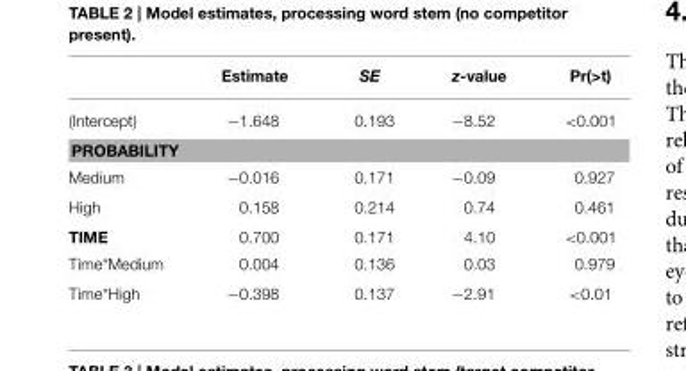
<table><thead><tr><td></td><td>Estimate</td><td>SE</td><td>z-value</td><td>Pr(&gt;t)</td></tr></thead><tbody><tr><td>(Intercept)</td><td>−1.648</td><td>0.193</td><td>−8.52</td><td>&lt;0.001</td></tr><tr><td colspan="5">PROBABILITY</td></tr><tr><td>Medium</td><td>−0.016</td><td>0.171</td><td>−0.09</td><td>0.927</td></tr><tr><td>High</td><td>0.158</td><td>0.214</td><td>0.74</td><td>0.461</td></tr><tr><td>TIME</td><td>0.700</td><td>0.171</td><td>4.10</td><td>&lt;0.001</td></tr><tr><td>Time*Medium</td><td>0.004</td><td>0.136</td><td>0.03</td><td>0.979</td></tr><tr><td>Time*High</td><td>−0.398</td><td>0.137</td><td>−2.91</td><td>&lt;0.01</td></tr></tbody></table>